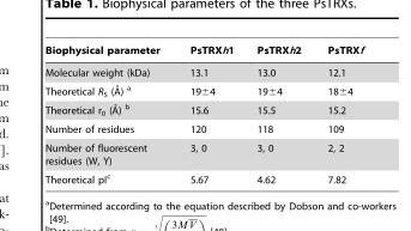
<table><thead><tr><td>Biophysical parameter</td><td>PsTRXh1</td><td>PsTRXh2</td><td>PsTRXf</td></tr></thead><tbody><tr><td>Molecular weight (kDa)</td><td>13.1</td><td>13.0</td><td>12.1</td></tr><tr><td>Theoretical RS (A˚) a</td><td>19±4</td><td>19±4</td><td>18±4</td></tr><tr><td>Theoretical r0 (A˚) b</td><td>15.6</td><td>15.5</td><td>15.2</td></tr><tr><td>Number of residues</td><td>120</td><td>118</td><td>109</td></tr><tr><td>Number of fluorescent residues (W, Y)</td><td>3, 0</td><td>3, 0</td><td>2, 2</td></tr><tr><td>Theoretical pI<sup>c</sup></td><td>5.67</td><td>4.62</td><td>7.82</td></tr></tbody></table>